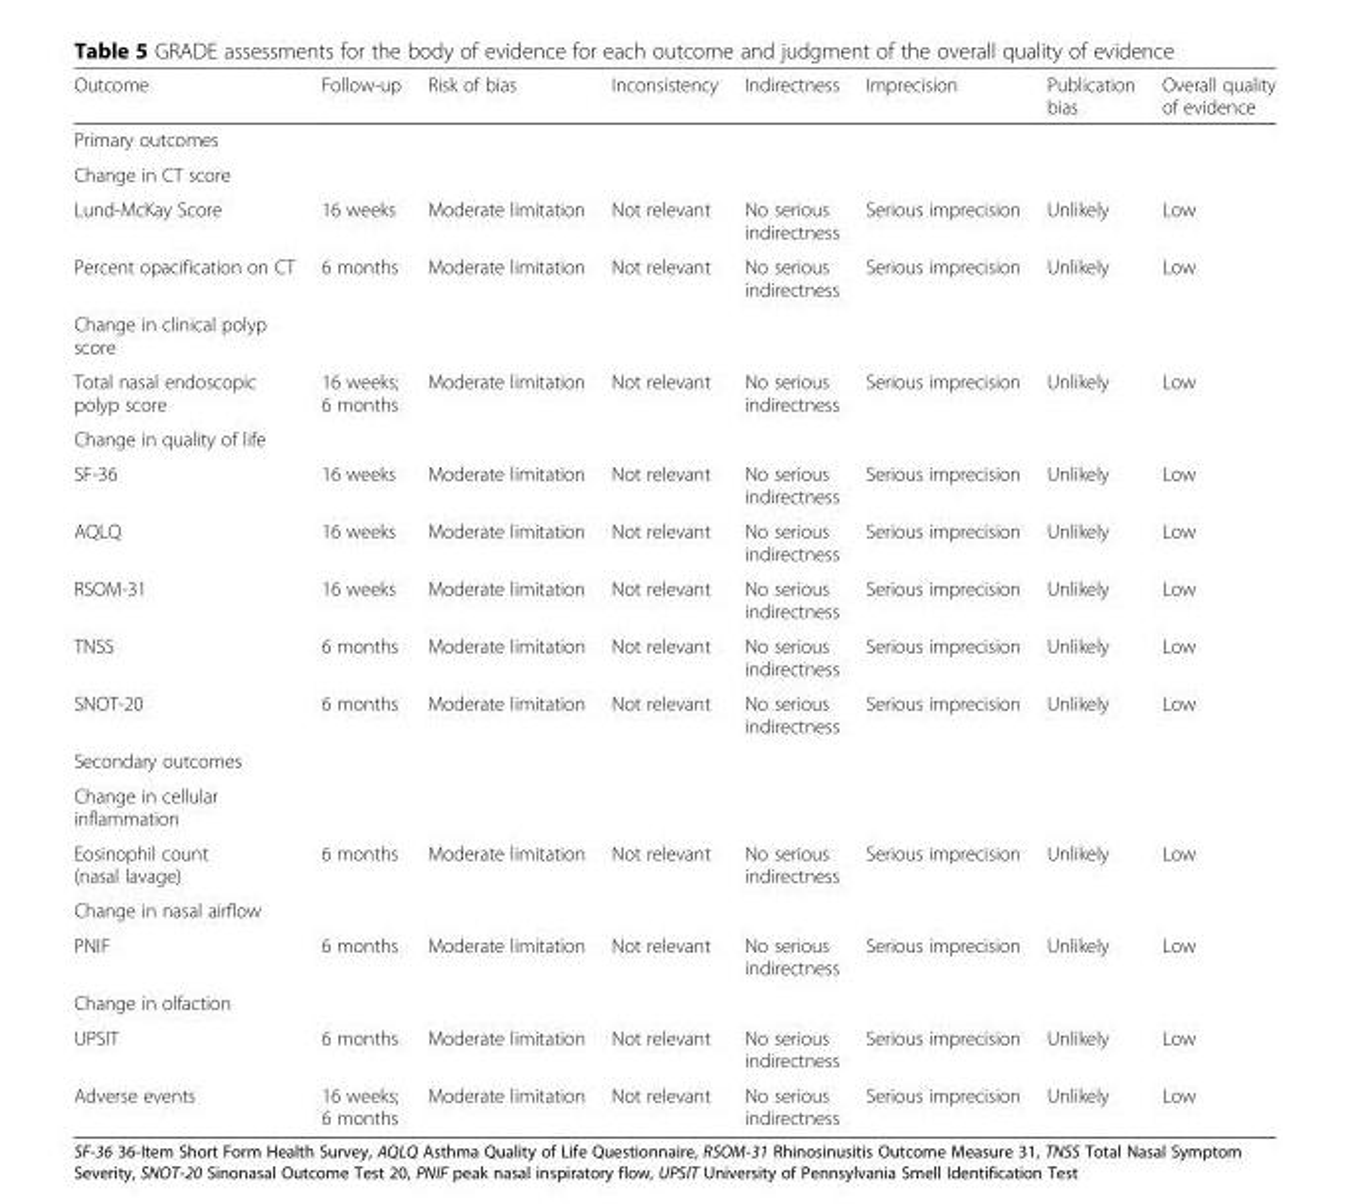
<table><thead><tr><td>Outcome</td><td>Follow-up</td><td>Risk of bias</td><td>Inconsistency</td><td>Indirectness</td><td>Imprecision</td><td>Publication bias</td><td>Overall quality of evidence</td></tr></thead><tbody><tr><td colspan="8">Primary outcomes</td></tr><tr><td colspan="8">Change in CT score</td></tr><tr><td>Lund-McKay Score</td><td>16 weeks</td><td>Moderate limitation</td><td>Not relevant</td><td>No serious indirectness</td><td>Serious imprecision</td><td>Unlikely</td><td>Low</td></tr><tr><td>Percent opacification on CT</td><td>6 months</td><td>Moderate limitation</td><td>Not relevant</td><td>No serious indirectness</td><td>Serious imprecision</td><td>Unlikely</td><td>Low</td></tr><tr><td colspan="8">Change in clinical polyp score</td></tr><tr><td>Total nasal endoscopic polyp score</td><td>16 weeks; 6 months</td><td>Moderate limitation</td><td>Not relevant</td><td>No serious indirectness</td><td>Serious imprecision</td><td>Unlikely</td><td>Low</td></tr><tr><td colspan="8">Change in quality of life</td></tr><tr><td>SF-36</td><td>16 weeks</td><td>Moderate limitation</td><td>Not relevant</td><td>No serious indirectness</td><td>Serious imprecision</td><td>Unlikely</td><td>Low</td></tr><tr><td>AQLQ</td><td>16 weeks</td><td>Moderate limitation</td><td>Not relevant</td><td>No serious indirectness</td><td>Serious imprecision</td><td>Unlikely</td><td>Low</td></tr><tr><td>RSOM-31</td><td>16 weeks</td><td>Moderate limitation</td><td>Not relevant</td><td>No serious indirectness</td><td>Serious imprecision</td><td>Unlikely</td><td>Low</td></tr><tr><td>TNSS</td><td>6 months</td><td>Moderate limitation</td><td>Not relevant</td><td>No serious indirectness</td><td>Serious imprecision</td><td>Unlikely</td><td>Low</td></tr><tr><td>SNOT-20</td><td>6 months</td><td>Moderate limitation</td><td>Not relevant</td><td>No serious indirectness</td><td>Serious imprecision</td><td>Unlikely</td><td>Low</td></tr><tr><td colspan="8">Secondary outcomes</td></tr><tr><td colspan="8">Change in cellular inflammation</td></tr><tr><td>Eosinophil count (nasal lavage)</td><td>6 months</td><td>Moderate limitation</td><td>Not relevant</td><td>No serious indirectness</td><td>Serious imprecision</td><td>Unlikely</td><td>Low</td></tr><tr><td colspan="8">Change in nasal airflow</td></tr><tr><td>PNIF</td><td>6 months</td><td>Moderate limitation</td><td>Not relevant</td><td>No serious indirectness</td><td>Serious imprecision</td><td>Unlikely</td><td>Low</td></tr><tr><td colspan="8">Change in olfaction</td></tr><tr><td>UPSIT</td><td>6 months</td><td>Moderate limitation</td><td>Not relevant</td><td>No serious indirectness</td><td>Serious imprecision</td><td>Unlikely</td><td>Low</td></tr><tr><td>Adverse events</td><td>16 weeks; 6 months</td><td>Moderate limitation</td><td>Not relevant</td><td>No serious indirectness</td><td>Serious imprecision</td><td>Unlikely</td><td>Low</td></tr></tbody></table>